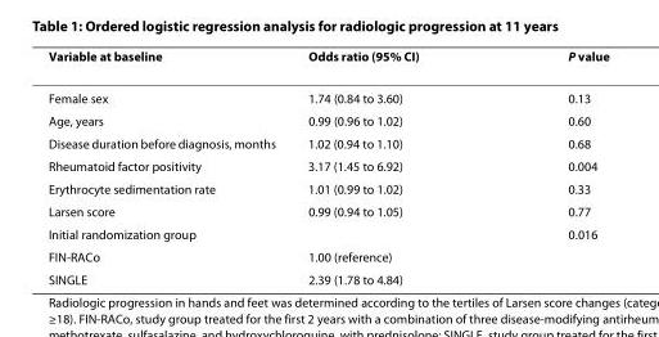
<table><thead><tr><td>Variable at baseline</td><td>Odds ratio (95% CI)</td><td>P value</td></tr></thead><tbody><tr><td>Female sex</td><td>1.74 (0.84 to 3.60)</td><td>0.13</td></tr><tr><td>Age, years</td><td>0.99 (0.96 to 1.02)</td><td>0.60</td></tr><tr><td>Disease duration before diagnosis, months</td><td>1.02 (0.94 to 1.10)</td><td>0.68</td></tr><tr><td>Rheumatoid factor positivity</td><td>3.17 (1.45 to 6.92)</td><td>0.004</td></tr><tr><td>Erythrocyte sedimentation rate</td><td>1.01 (0.99 to 1.02)</td><td>0.33</td></tr><tr><td>Larsen score</td><td>0.99 (0.94 to 1.05)</td><td>0.77</td></tr><tr><td>Initial randomization group</td><td></td><td>0.016</td></tr><tr><td>FIN-RACo</td><td>1.00 (reference)</td><td></td></tr><tr><td>SINGLE</td><td>2.39 (1.78 to 4.84)</td><td></td></tr></tbody></table>